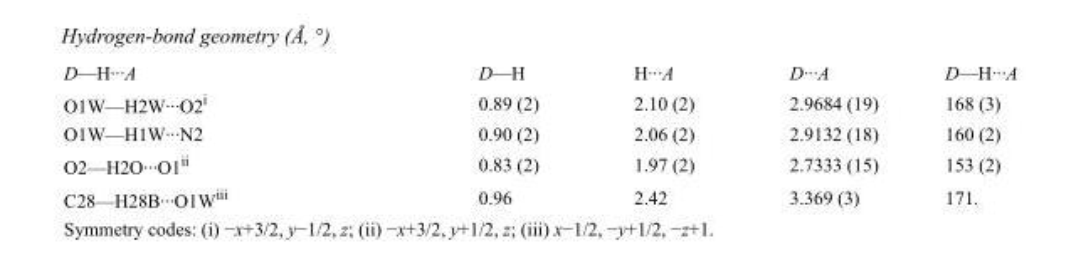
<table><tbody><tr><td>D—H···A</td><td>D—H</td><td>H···A</td><td>D···A</td><td>D—H···A</td></tr><tr><td>O1W—H2W···O2<sup>i</sup></td><td>0.89 (2)</td><td>2.10 (2)</td><td>2.9684 (19)</td><td>168 (3)</td></tr><tr><td>O1W—H1W···N2</td><td>0.90 (2)</td><td>2.06 (2)</td><td>2.9132 (18)</td><td>160 (2)</td></tr><tr><td>O2—H2O···O1<sup>ii</sup></td><td>0.83 (2)</td><td>1.97 (2)</td><td>2.7333 (15)</td><td>153 (2)</td></tr><tr><td>C28—H28B···O1W<sup>iii</sup></td><td>0.96</td><td>2.42</td><td>3.369 (3)</td><td>171.</td></tr></tbody></table>